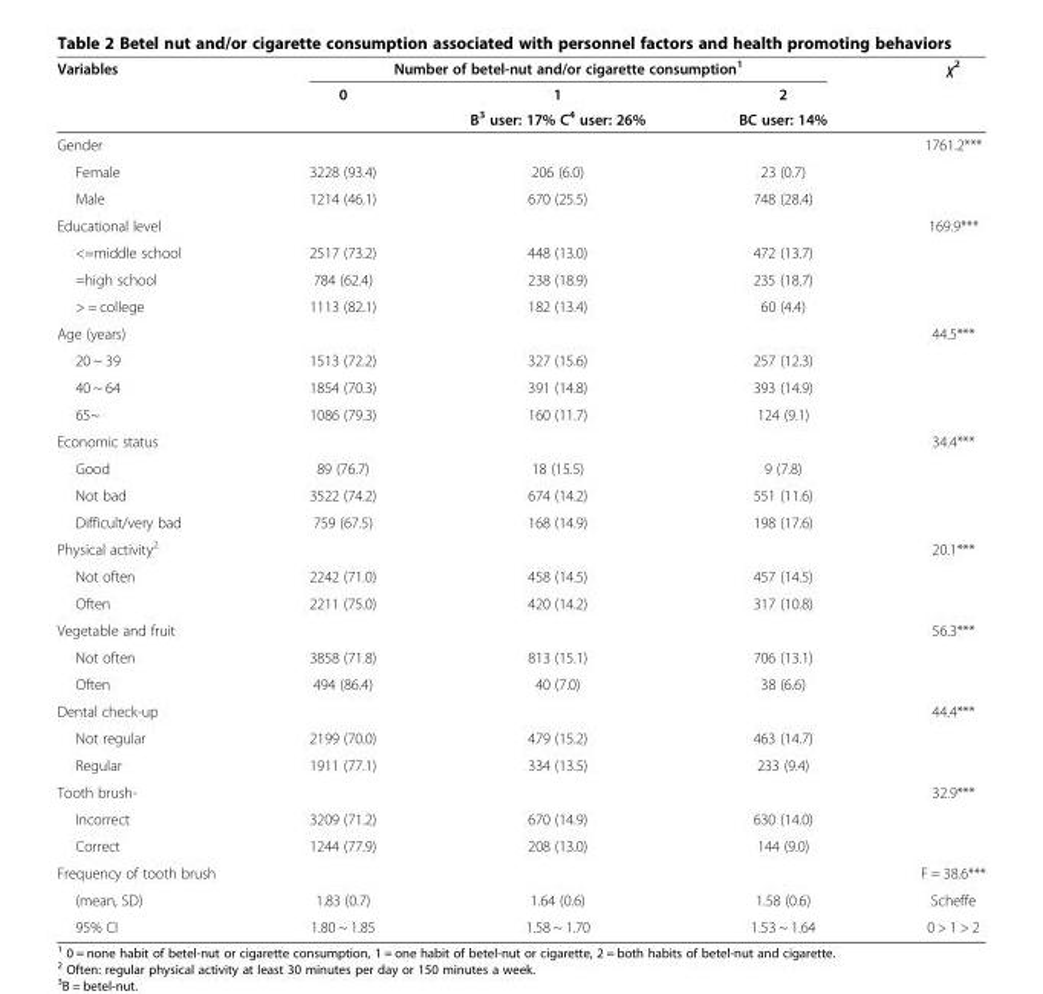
<table><thead><tr><td rowspan="3">Variables</td><td colspan="3">Number of betel-nut and/or cigarette consumption<sup>1</sup></td><td rowspan="3">χ<sup>2</sup></td></tr><tr><td rowspan="2">0</td><td rowspan="2">1 B<sup>3</sup> user: 17% C<sup>4</sup> user: 26%</td><td rowspan="2">2 BC user: 14%</td></tr><tr></tr></thead><tbody><tr><td>Gender</td><td></td><td></td><td></td><td>1761.2***</td></tr><tr><td>Female</td><td>3228 (93.4)</td><td>206 (6.0)</td><td>23 (0.7)</td><td></td></tr><tr><td>Male</td><td>1214 (46.1)</td><td>670 (25.5)</td><td>748 (28.4)</td><td></td></tr><tr><td>Educational level</td><td></td><td></td><td></td><td>169.9***</td></tr><tr><td>&lt;=middle school</td><td>2517 (73.2)</td><td>448 (13.0)</td><td>472 (13.7)</td><td></td></tr><tr><td>=high school</td><td>784 (62.4)</td><td>238 (18.9)</td><td>235 (18.7)</td><td></td></tr><tr><td>&gt; = college</td><td>1113 (82.1)</td><td>182 (13.4)</td><td>60 (4.4)</td><td></td></tr><tr><td>Age (years)</td><td></td><td></td><td></td><td>44.5***</td></tr><tr><td>20 ~ 39</td><td>1513 (72.2)</td><td>327 (15.6)</td><td>257 (12.3)</td><td></td></tr><tr><td>40 ~ 64</td><td>1854 (70.3)</td><td>391 (14.8)</td><td>393 (14.9)</td><td></td></tr><tr><td>65~</td><td>1086 (79.3)</td><td>160 (11.7)</td><td>124 (9.1)</td><td></td></tr><tr><td>Economic status</td><td></td><td></td><td></td><td>34.4***</td></tr><tr><td>Good</td><td>89 (76.7)</td><td>18 (15.5)</td><td>9 (7.8)</td><td></td></tr><tr><td>Not bad</td><td>3522 (74.2)</td><td>674 (14.2)</td><td>551 (11.6)</td><td></td></tr><tr><td>Difficult/very bad</td><td>759 (67.5)</td><td>168 (14.9)</td><td>198 (17.6)</td><td></td></tr><tr><td>Physical activity<sup>2</sup></td><td></td><td></td><td></td><td>20.1***</td></tr><tr><td>Not often</td><td>2242 (71.0)</td><td>458 (14.5)</td><td>457 (14.5)</td><td></td></tr><tr><td>Often</td><td>2211 (75.0)</td><td>420 (14.2)</td><td>317 (10.8)</td><td></td></tr><tr><td>Vegetable and fruit</td><td></td><td></td><td></td><td>56.3***</td></tr><tr><td>Not often</td><td>3858 (71.8)</td><td>813 (15.1)</td><td>706 (13.1)</td><td></td></tr><tr><td>Often</td><td>494 (86.4)</td><td>40 (7.0)</td><td>38 (6.6)</td><td></td></tr><tr><td>Dental check-up</td><td></td><td></td><td></td><td>44.4***</td></tr><tr><td>Not regular</td><td>2199 (70.0)</td><td>479 (15.2)</td><td>463 (14.7)</td><td></td></tr><tr><td>Regular</td><td>1911 (77.1)</td><td>334 (13.5)</td><td>233 (9.4)</td><td></td></tr><tr><td>Tooth brush-</td><td></td><td></td><td></td><td>32.9***</td></tr><tr><td>Incorrect</td><td>3209 (71.2)</td><td>670 (14.9)</td><td>630 (14.0)</td><td></td></tr><tr><td>Correct</td><td>1244 (77.9)</td><td>208 (13.0)</td><td>144 (9.0)</td><td></td></tr><tr><td>Frequency of tooth brush</td><td></td><td></td><td></td><td>F = 38.6***</td></tr><tr><td>(mean, SD)</td><td>1.83 (0.7)</td><td>1.64 (0.6)</td><td>1.58 (0.6)</td><td>Scheffe</td></tr><tr><td>95% CI</td><td>1.80 ~ 1.85</td><td>1.58 ~ 1.70</td><td>1.53 ~ 1.64</td><td>0 &gt; 1 &gt; 2</td></tr></tbody></table>